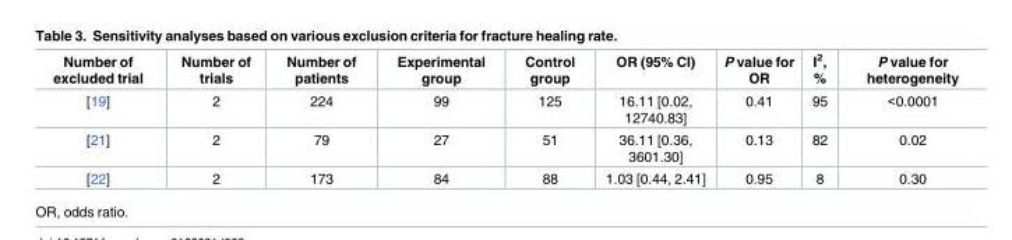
<table><thead><tr><td>Number of excluded trial</td><td>Number of trials</td><td>Number of patients</td><td>Experimental group</td><td>Control group</td><td>OR (95% CI)</td><td>P value for OR</td><td>I<sup>2</sup>, %</td><td>P value for heterogeneity</td></tr></thead><tbody><tr><td>[19]</td><td>2</td><td>224</td><td>99</td><td>125</td><td>16.11 [0.02, 12740.83]</td><td>0.41</td><td>95</td><td>&lt;0.0001</td></tr><tr><td>[21]</td><td>2</td><td>79</td><td>27</td><td>51</td><td>36.11 [0.36, 3601.30]</td><td>0.13</td><td>82</td><td>0.02</td></tr><tr><td>[22]</td><td>2</td><td>173</td><td>84</td><td>88</td><td>1.03 [0.44, 2.41]</td><td>0.95</td><td>8</td><td>0.30</td></tr></tbody></table>